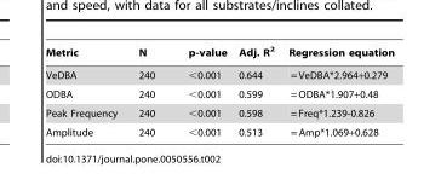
<table><thead><tr><td>Metric</td><td>N</td><td>p-value</td><td>Adj. R<sup>2</sup></td><td>Regression equation</td></tr></thead><tbody><tr><td>VeDBA</td><td>240</td><td>&lt;0.001</td><td>0.644</td><td>= VeDBA*2.964+0.279</td></tr><tr><td>ODBA</td><td>240</td><td>&lt;0.001</td><td>0.599</td><td>= ODBA*1.907+0.48</td></tr><tr><td>Peak Frequency</td><td>240</td><td>&lt;0.001</td><td>0.598</td><td>= Freq*1.239-0.826</td></tr><tr><td>Amplitude</td><td>240</td><td>&lt;0.001</td><td>0.513</td><td>= Amp*1.069+0.628</td></tr></tbody></table>